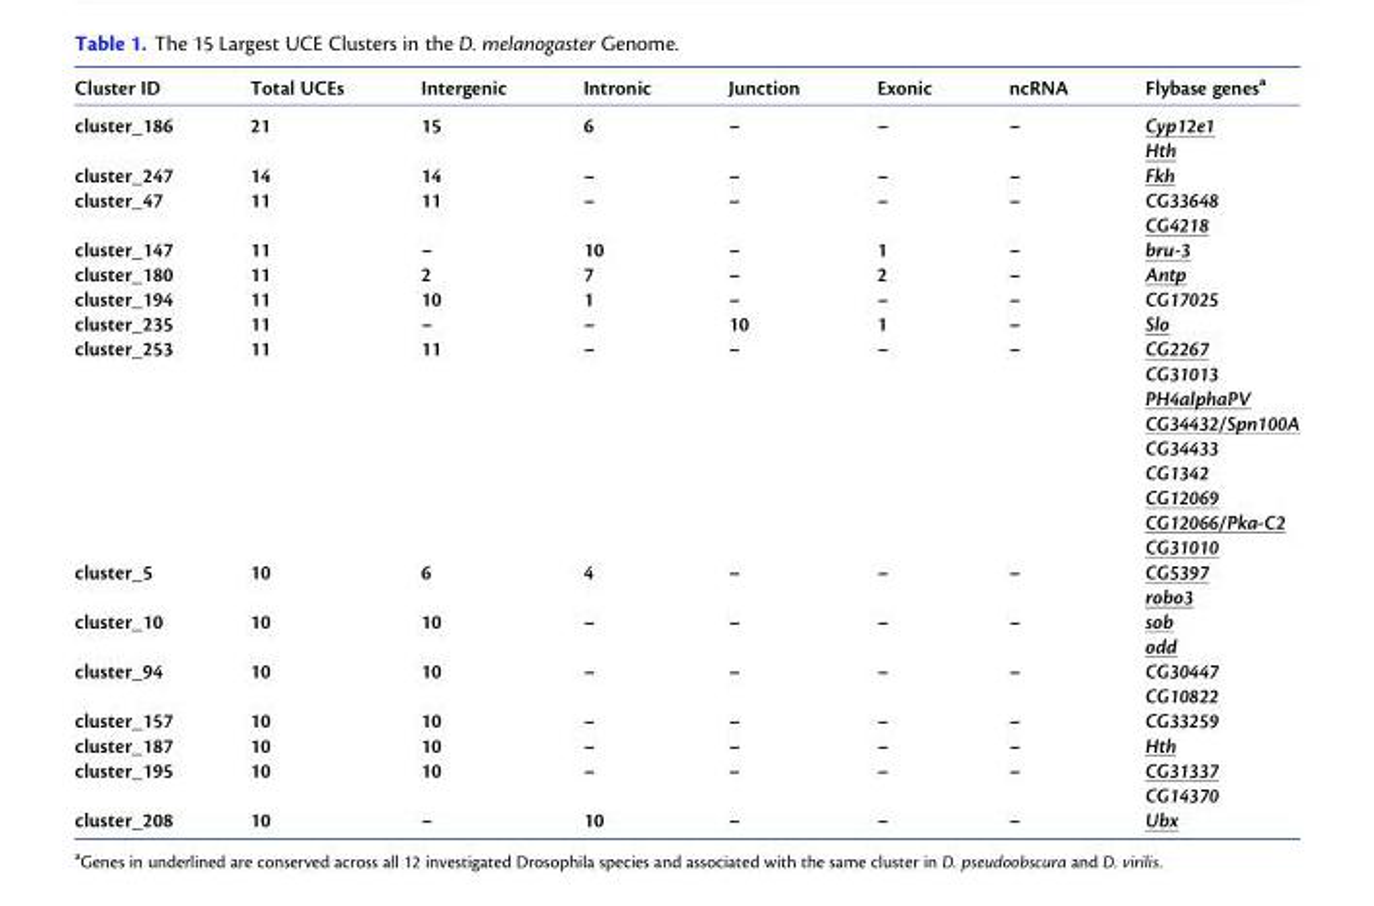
<table><thead><tr><td>Cluster ID</td><td>Total UCEs</td><td>Intergenic</td><td>Intronic</td><td>Junction</td><td>Exonic</td><td>ncRNA</td><td>Flybase genes<sup>a</sup></td></tr></thead><tbody><tr><td rowspan="2">cluster_186</td><td rowspan="2">21</td><td rowspan="2">15</td><td rowspan="2">6</td><td rowspan="2">–</td><td rowspan="2">–</td><td rowspan="2">–</td><td>Cyp12e1</td></tr><tr><td>Hth</td></tr><tr><td>cluster_247</td><td>14</td><td>14</td><td>–</td><td>–</td><td>–</td><td>–</td><td>Fkh</td></tr><tr><td rowspan="2">cluster_47</td><td rowspan="2">11</td><td rowspan="2">11</td><td rowspan="2">–</td><td rowspan="2">–</td><td rowspan="2">–</td><td rowspan="2">–</td><td>CG33648</td></tr><tr><td>CG4218</td></tr><tr><td>cluster_147</td><td>11</td><td>–</td><td>10</td><td>–</td><td>1</td><td>–</td><td>bru-3</td></tr><tr><td>cluster_180</td><td>11</td><td>2</td><td>7</td><td>–</td><td>2</td><td>–</td><td>Antp</td></tr><tr><td>cluster_194</td><td>11</td><td>10</td><td>1</td><td>–</td><td>–</td><td>–</td><td>CG17025</td></tr><tr><td>cluster_235</td><td>11</td><td>–</td><td>–</td><td>10</td><td>1</td><td>–</td><td>Slo</td></tr><tr><td rowspan="9">cluster_253</td><td rowspan="9">11</td><td rowspan="9">11</td><td rowspan="9">–</td><td rowspan="9">–</td><td rowspan="9">–</td><td rowspan="9">–</td><td>CG2267</td></tr><tr><td>CG31013</td></tr><tr><td>PH4alphaPV</td></tr><tr><td>CG34432/Spn100A</td></tr><tr><td>CG34433</td></tr><tr><td>CG1342</td></tr><tr><td>CG12069</td></tr><tr><td>CG12066/Pka-C2</td></tr><tr><td>CG31010</td></tr><tr><td rowspan="2">cluster_5</td><td rowspan="2">10</td><td rowspan="2">6</td><td rowspan="2">4</td><td rowspan="2">–</td><td rowspan="2">–</td><td rowspan="2">–</td><td>CG5397</td></tr><tr><td>robo3</td></tr><tr><td rowspan="2">cluster_10</td><td rowspan="2">10</td><td rowspan="2">10</td><td rowspan="2">–</td><td rowspan="2">–</td><td rowspan="2">–</td><td rowspan="2">–</td><td>sob</td></tr><tr><td>odd</td></tr><tr><td rowspan="2">cluster_94</td><td rowspan="2">10</td><td rowspan="2">10</td><td rowspan="2">–</td><td rowspan="2">–</td><td rowspan="2">–</td><td rowspan="2">–</td><td>CG30447</td></tr><tr><td>CG10822</td></tr><tr><td>cluster_157</td><td>10</td><td>10</td><td>–</td><td>–</td><td>–</td><td>–</td><td>CG33259</td></tr><tr><td>cluster_187</td><td>10</td><td>10</td><td>–</td><td>–</td><td>–</td><td>–</td><td>Hth</td></tr><tr><td rowspan="2">cluster_195</td><td rowspan="2">10</td><td rowspan="2">10</td><td rowspan="2">–</td><td rowspan="2">–</td><td rowspan="2">–</td><td rowspan="2">–</td><td>CG31337</td></tr><tr><td>CG14370</td></tr><tr><td>cluster_208</td><td>10</td><td>–</td><td>10</td><td>–</td><td>–</td><td>–</td><td>Ubx</td></tr></tbody></table>